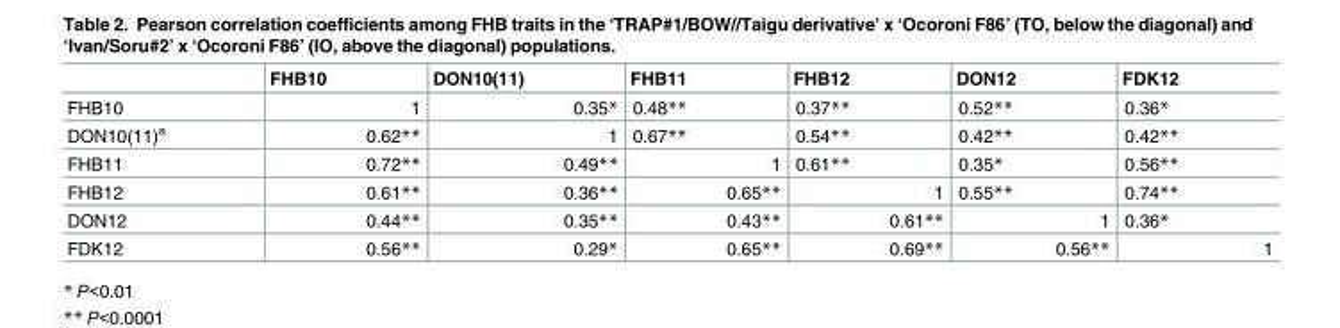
<table><thead><tr><td></td><td>FHB10</td><td>DON10(11)</td><td>FHB11</td><td>FHB12</td><td>DON12</td><td>FDK12</td></tr></thead><tbody><tr><td>FHB10</td><td>1</td><td>0.35*</td><td>0.48**</td><td>0.37**</td><td>0.52**</td><td>0.36*</td></tr><tr><td>DON10(11)<sup>a</sup></td><td>0.62**</td><td>1</td><td>0.67**</td><td>0.54**</td><td>0.42**</td><td>0.42**</td></tr><tr><td>FHB11</td><td>0.72**</td><td>0.49**</td><td>1</td><td>0.61**</td><td>0.35*</td><td>0.56**</td></tr><tr><td>FHB12</td><td>0.61**</td><td>0.36**</td><td>0.65**</td><td>1</td><td>0.55**</td><td>0.74**</td></tr><tr><td>DON12</td><td>0.44**</td><td>0.35**</td><td>0.43**</td><td>0.61**</td><td>1</td><td>0.36*</td></tr><tr><td>FDK12</td><td>0.56**</td><td>0.29*</td><td>0.65**</td><td>0.69**</td><td>0.56**</td><td>1</td></tr></tbody></table>